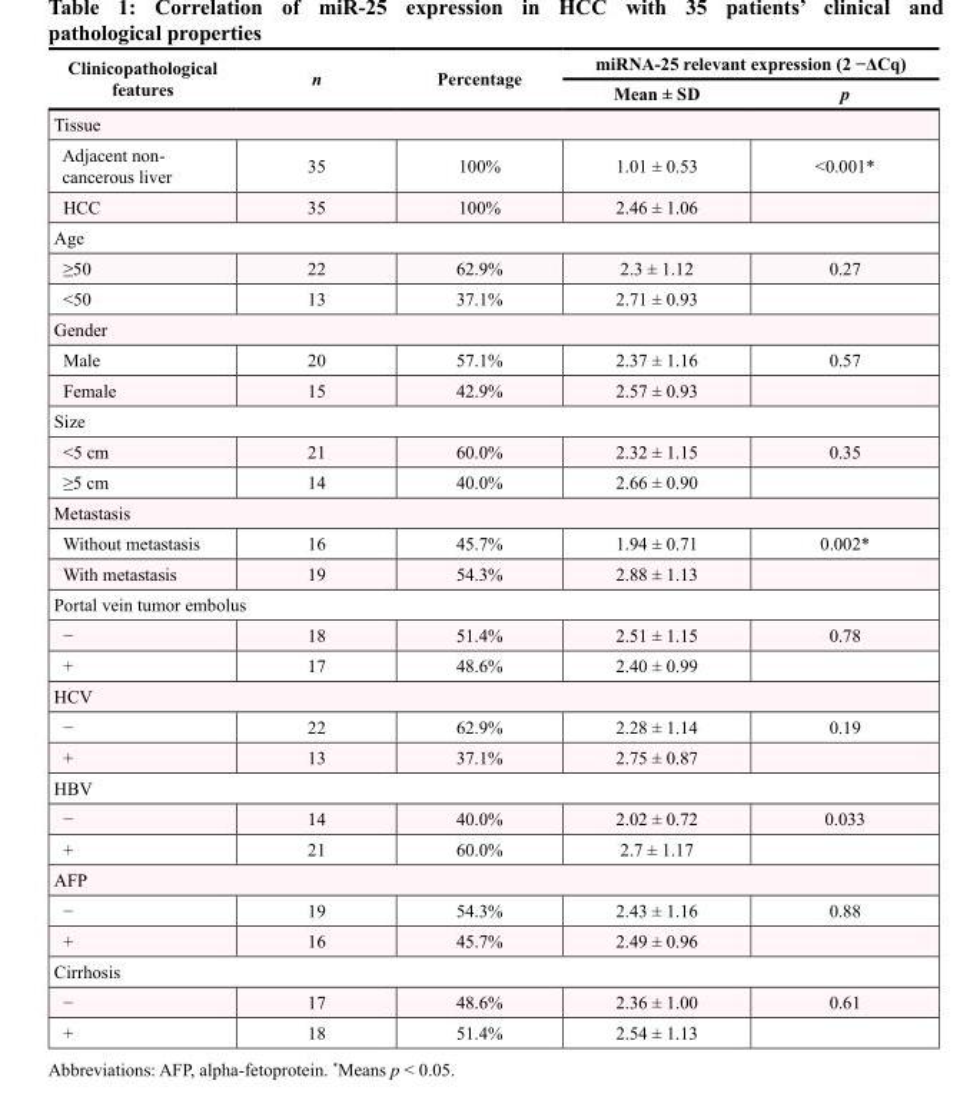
<table><thead><tr><td rowspan="2">Clinicopathological features</td><td rowspan="2">n</td><td rowspan="2">Percentage</td><td colspan="2">miRNA-25 relevant expression (2 −ΔCq)</td></tr><tr><td>Mean ± SD</td><td>p</td></tr></thead><tbody><tr><td colspan="5">Tissue</td></tr><tr><td>Adjacent non- cancerous liver</td><td>35</td><td>100%</td><td>1.01 ± 0.53</td><td>&lt;0.001*</td></tr><tr><td>HCC</td><td>35</td><td>100%</td><td>2.46 ± 1.06</td><td></td></tr><tr><td colspan="5">Age</td></tr><tr><td>≥50</td><td>22</td><td>62.9%</td><td>2.3 ± 1.12</td><td>0.27</td></tr><tr><td>&lt;50</td><td>13</td><td>37.1%</td><td>2.71 ± 0.93</td><td></td></tr><tr><td colspan="5">Gender</td></tr><tr><td>Male</td><td>20</td><td>57.1%</td><td>2.37 ± 1.16</td><td>0.57</td></tr><tr><td>Female</td><td>15</td><td>42.9%</td><td>2.57 ± 0.93</td><td></td></tr><tr><td colspan="5">Size</td></tr><tr><td>&lt;5 cm</td><td>21</td><td>60.0%</td><td>2.32 ± 1.15</td><td>0.35</td></tr><tr><td>≥5 cm</td><td>14</td><td>40.0%</td><td>2.66 ± 0.90</td><td></td></tr><tr><td colspan="5">Metastasis</td></tr><tr><td>Without metastasis</td><td>16</td><td>45.7%</td><td>1.94 ± 0.71</td><td>0.002*</td></tr><tr><td>With metastasis</td><td>19</td><td>54.3%</td><td>2.88 ± 1.13</td><td></td></tr><tr><td colspan="5">Portal vein tumor embolus</td></tr><tr><td>−</td><td>18</td><td>51.4%</td><td>2.51 ± 1.15</td><td>0.78</td></tr><tr><td>+</td><td>17</td><td>48.6%</td><td>2.40 ± 0.99</td><td></td></tr><tr><td colspan="5">HCV</td></tr><tr><td>−</td><td>22</td><td>62.9%</td><td>2.28 ± 1.14</td><td>0.19</td></tr><tr><td>+</td><td>13</td><td>37.1%</td><td>2.75 ± 0.87</td><td></td></tr><tr><td colspan="5">HBV</td></tr><tr><td>−</td><td>14</td><td>40.0%</td><td>2.02 ± 0.72</td><td>0.033</td></tr><tr><td>+</td><td>21</td><td>60.0%</td><td>2.7 ± 1.17</td><td></td></tr><tr><td colspan="5">AFP</td></tr><tr><td>−</td><td>19</td><td>54.3%</td><td>2.43 ± 1.16</td><td>0.88</td></tr><tr><td>+</td><td>16</td><td>45.7%</td><td>2.49 ± 0.96</td><td></td></tr><tr><td colspan="5">Cirrhosis</td></tr><tr><td>−</td><td>17</td><td>48.6%</td><td>2.36 ± 1.00</td><td>0.61</td></tr><tr><td>+</td><td>18</td><td>51.4%</td><td>2.54 ± 1.13</td><td></td></tr></tbody></table>